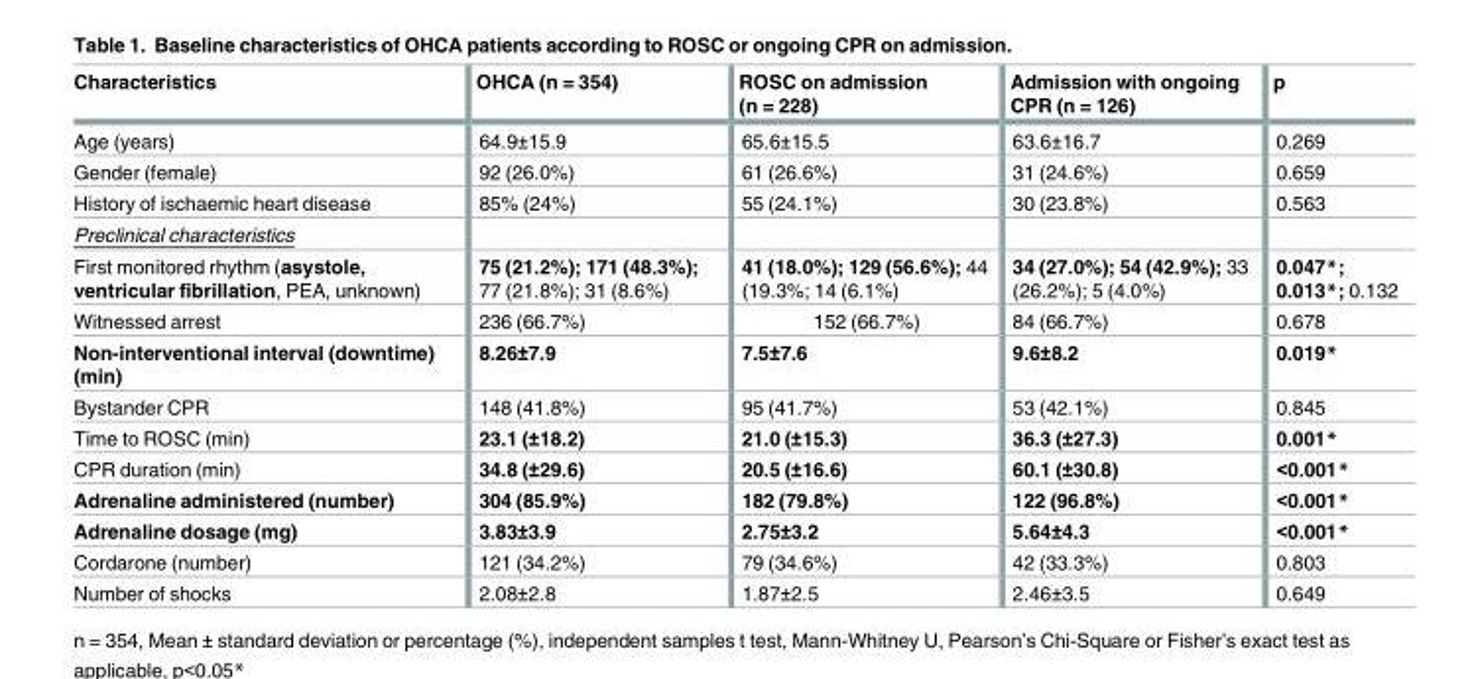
<table><thead><tr><td>Characteristics</td><td>OHCA (n = 354)</td><td>ROSC on admission (n = 228)</td><td>Admission with ongoing CPR (n = 126)</td><td>p</td></tr></thead><tbody><tr><td>Age (years)</td><td>64.9±15.9</td><td>65.6±15.5</td><td>63.6±16.7</td><td>0.269</td></tr><tr><td>Gender (female)</td><td>92 (26.0%)</td><td>61 (26.6%)</td><td>31 (24.6%)</td><td>0.659</td></tr><tr><td>History of ischaemic heart disease</td><td>85% (24%)</td><td>55 (24.1%)</td><td>30 (23.8%)</td><td>0.563</td></tr><tr><td colspan="5">Preclinical characteristics</td></tr><tr><td>First monitored rhythm (asystole, ventricular fibrillation, PEA, unknown)</td><td>75 (21.2%); 171 (48.3%); 77 (21.8%); 31 (8.6%)</td><td>41 (18.0%); 129 (56.6%); 44 (19.3%; 14 (6.1%)</td><td>34 (27.0%); 54 (42.9%); 33 (26.2%); 5 (4.0%)</td><td>0.047*; 0.013*; 0.132</td></tr><tr><td>Witnessed arrest</td><td>236 (66.7%)</td><td>152 (66.7%)</td><td>84 (66.7%)</td><td>0.678</td></tr><tr><td>Non-interventional interval (downtime) (min)</td><td>8.26±7.9</td><td>7.5±7.6</td><td>9.6±8.2</td><td>0.019*</td></tr><tr><td>Bystander CPR</td><td>148 (41.8%)</td><td>95 (41.7%)</td><td>53 (42.1%)</td><td>0.845</td></tr><tr><td>Time to ROSC (min)</td><td>23.1 (±18.2)</td><td>21.0 (±15.3)</td><td>36.3 (±27.3)</td><td>0.001*</td></tr><tr><td>CPR duration (min)</td><td>34.8 (±29.6)</td><td>20.5 (±16.6)</td><td>60.1 (±30.8)</td><td>&lt;0.001*</td></tr><tr><td>Adrenaline administered (number)</td><td>304 (85.9%)</td><td>182 (79.8%)</td><td>122 (96.8%)</td><td>&lt;0.001*</td></tr><tr><td>Adrenaline dosage (mg)</td><td>3.83±3.9</td><td>2.75±3.2</td><td>5.64±4.3</td><td>&lt;0.001*</td></tr><tr><td>Cordarone (number)</td><td>121 (34.2%)</td><td>79 (34.6%)</td><td>42 (33.3%)</td><td>0.803</td></tr><tr><td>Number of shocks</td><td>2.08±2.8</td><td>1.87±2.5</td><td>2.46±3.5</td><td>0.649</td></tr></tbody></table>